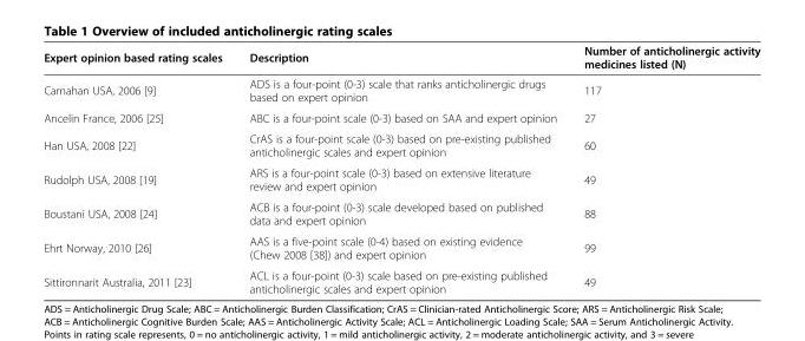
<table><thead><tr><td>Expert opinion based rating scales</td><td>Description</td><td>Number of anticholinergic activity medicines listed (N)</td></tr></thead><tbody><tr><td>Carnahan USA, 2006 [9]</td><td>ADS is a four-point (0-3) scale that ranks anticholinergic drugs based on expert opinion</td><td>117</td></tr><tr><td>Ancelin France, 2006 [25]</td><td>ABC is a four-point scale (0-3) based on SAA and expert opinion</td><td>27</td></tr><tr><td>Han USA, 2008 [22]</td><td>CrAS is a four-point scale (0-3) based on pre-existing published anticholinergic scales and expert opinion</td><td>60</td></tr><tr><td>Rudolph USA, 2008 [19]</td><td>ARS is a four-point scale (0-3) based on extensive literature review and expert opinion</td><td>49</td></tr><tr><td>Boustani USA, 2008 [24]</td><td>ACB is a four-point (0-3) scale developed based on published data and expert opinion</td><td>88</td></tr><tr><td>Ehrt Norway, 2010 [26]</td><td>AAS is a five-point scale (0-4) based on existing evidence (Chew 2008 [38]) and expert opinion</td><td>99</td></tr><tr><td>Sittironnarit Australia, 2011 [23]</td><td>ACL is a four-point (0-3) scale based on pre-existing published anticholinergic scales and expert opinion</td><td>49</td></tr></tbody></table>